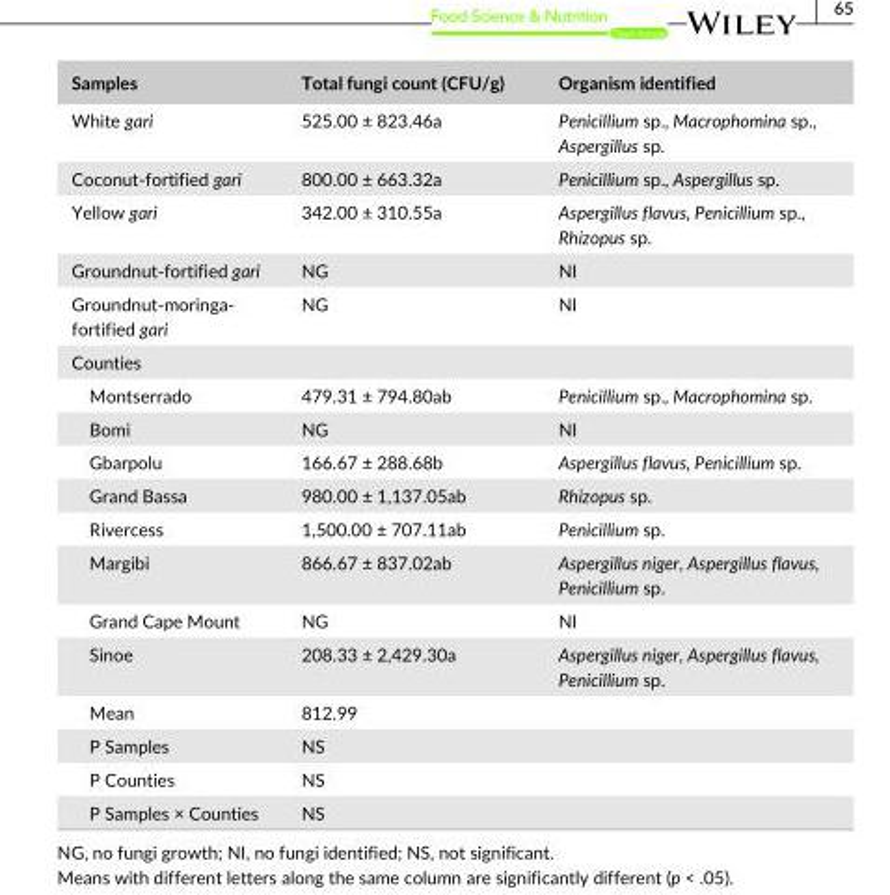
<table><thead><tr><td>Samples</td><td>Total fungi count (CFU/g)</td><td>Organism identified</td></tr></thead><tbody><tr><td>White gari</td><td>525.00 ± 823.46a</td><td>Penicillium sp., Macrophomina sp., Aspergillus sp.</td></tr><tr><td>Coconut- fortified gari</td><td>800.00 ± 663.32a</td><td>Penicillium sp., Aspergillus sp.</td></tr><tr><td>Yellow gari</td><td>342.00 ± 310.55a</td><td>Aspergillus flavus, Penicillium sp., Rhizopus sp.</td></tr><tr><td>Groundnut- fortified gari</td><td>NG</td><td>NI</td></tr><tr><td>Groundnut- moringa- fortified gari</td><td>NG</td><td>NI</td></tr><tr><td colspan="3">Counties</td></tr><tr><td>Montserrado</td><td>479.31 ± 794.80ab</td><td>Penicillium sp., Macrophomina sp.</td></tr><tr><td>Bomi</td><td>NG</td><td>NI</td></tr><tr><td>Gbarpolu</td><td>166.67 ± 288.68b</td><td>Aspergillus flavus, Penicillium sp.</td></tr><tr><td>Grand Bassa</td><td>980.00 ± 1,137.05ab</td><td>Rhizopus sp.</td></tr><tr><td>Rivercess</td><td>1,500.00 ± 707.11ab</td><td>Penicillium sp.</td></tr><tr><td>Margibi</td><td>866.67 ± 837.02ab</td><td>Aspergillus niger, Aspergillus flavus, Penicillium sp.</td></tr><tr><td>Grand Cape Mount</td><td>NG</td><td>NI</td></tr><tr><td>Sinoe</td><td>208.33 ± 2,429.30a</td><td>Aspergillus niger, Aspergillus flavus, Penicillium sp.</td></tr><tr><td>Mean</td><td>812.99</td><td></td></tr><tr><td>P Samples</td><td>NS</td><td></td></tr><tr><td>P Counties</td><td>NS</td><td></td></tr><tr><td>P Samples × Counties</td><td>NS</td><td></td></tr></tbody></table>